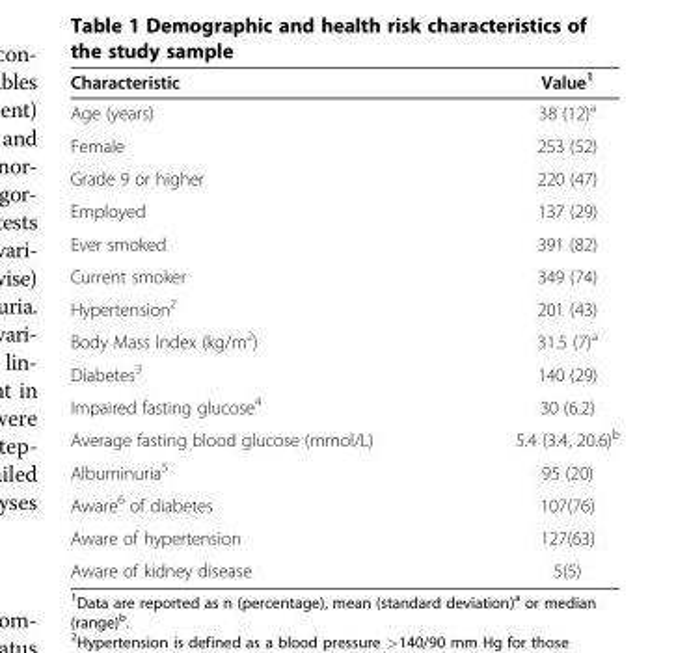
<table><thead><tr><td>Characteristic</td><td>Value<sup>1</sup></td></tr></thead><tbody><tr><td>Age (years)</td><td>38 (12)<sup>a</sup></td></tr><tr><td>Female</td><td>253 (52)</td></tr><tr><td>Grade 9 or higher</td><td>220 (47)</td></tr><tr><td>Employed</td><td>137 (29)</td></tr><tr><td>Ever smoked</td><td>391 (82)</td></tr><tr><td>Current smoker</td><td>349 (74)</td></tr><tr><td>Hypertension<sup>2</sup></td><td>201 (43)</td></tr><tr><td>Body Mass Index (kg/m<sup>2</sup>)</td><td>31.5 (7)<sup>a</sup></td></tr><tr><td>Diabetes<sup>3</sup></td><td>140 (29)</td></tr><tr><td>Impaired fasting glucose<sup>4</sup></td><td>30 (6.2)</td></tr><tr><td>Average fasting blood glucose (mmol/L)</td><td>5.4 (3.4, 20.6)<sup>b</sup></td></tr><tr><td>Albuminuria<sup>5</sup></td><td>95 (20)</td></tr><tr><td>Aware<sup>6</sup> of diabetes</td><td>107(76)</td></tr><tr><td>Aware of hypertension</td><td>127(63)</td></tr><tr><td>Aware of kidney disease</td><td>5(5)</td></tr></tbody></table>